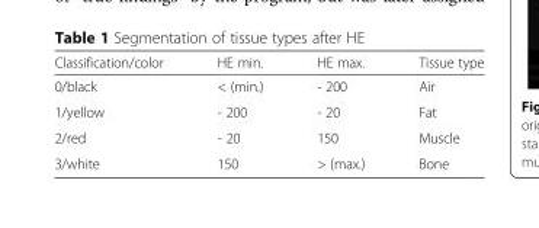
<table><thead><tr><td>Classification/color</td><td>HE min.</td><td>HE max.</td><td>Tissue type</td></tr></thead><tbody><tr><td>0/black</td><td>&lt; (min.)</td><td>- 200</td><td>Air</td></tr><tr><td>1/yellow</td><td>- 200</td><td>- 20</td><td>Fat</td></tr><tr><td>2/red</td><td>- 20</td><td>150</td><td>Muscle</td></tr><tr><td>3/white</td><td>150</td><td>&gt; (max.)</td><td>Bone</td></tr></tbody></table>